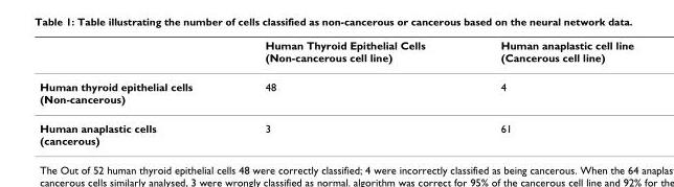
<table><thead><tr><td></td><td>Human Thyroid Epithelial Cells (Non-cancerous cell line)</td><td>Human anaplastic cell line (Cancerous cell line)</td></tr></thead><tbody><tr><td>Human thyroid epithelial cells (Non-cancerous)</td><td>48</td><td>4</td></tr><tr><td>Human anaplastic cells (cancerous)</td><td>3</td><td>61</td></tr></tbody></table>